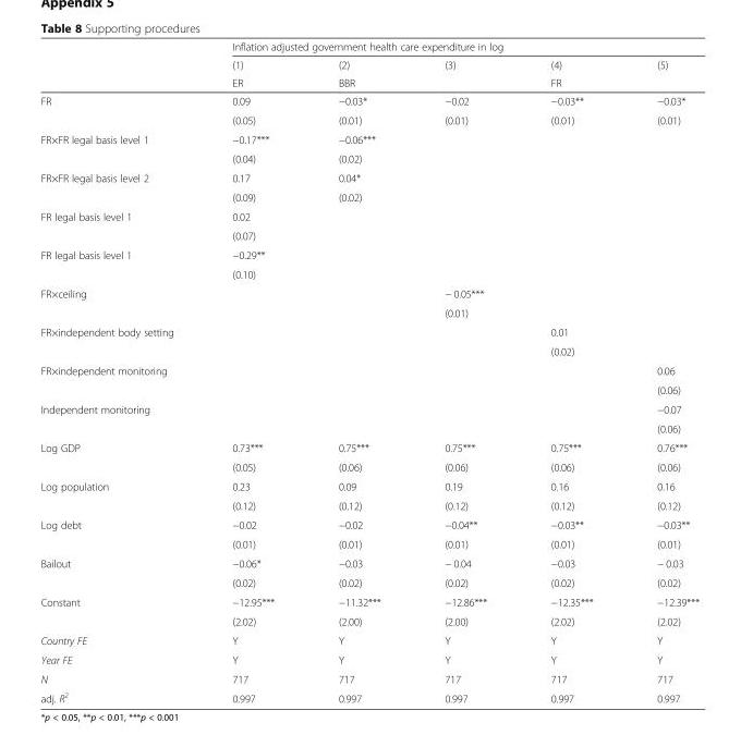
<table><thead><tr><td rowspan="3"></td><td colspan="5">Inflation adjusted government health care expenditure in log</td></tr><tr><td rowspan="2">(1) ER</td><td rowspan="2">(2) BBR</td><td rowspan="2">(3)</td><td rowspan="2">(4) FR</td><td rowspan="2">(5)</td></tr><tr></tr></thead><tbody><tr><td rowspan="2">FR</td><td>0.09</td><td>−0.03*</td><td>−0.02</td><td>−0.03**</td><td>−0.03*</td></tr><tr><td>(0.05)</td><td>(0.01)</td><td>(0.01)</td><td>(0.01)</td><td>(0.01)</td></tr><tr><td rowspan="2">FR×FR legal basis level 1</td><td>−0.17***</td><td>−0.06***</td><td></td><td></td><td></td></tr><tr><td>(0.04)</td><td>(0.02)</td><td></td><td></td><td></td></tr><tr><td rowspan="2">FR×FR legal basis level 2</td><td>0.17</td><td>0.04*</td><td></td><td></td><td></td></tr><tr><td>(0.09)</td><td>(0.02)</td><td></td><td></td><td></td></tr><tr><td rowspan="2">FR legal basis level 1</td><td>0.02</td><td></td><td></td><td></td><td></td></tr><tr><td>(0.07)</td><td></td><td></td><td></td><td></td></tr><tr><td rowspan="2">FR legal basis level 1</td><td>−0.29**</td><td></td><td></td><td></td><td></td></tr><tr><td>(0.10)</td><td></td><td></td><td></td><td></td></tr><tr><td rowspan="2">FR×ceiling</td><td></td><td></td><td>− 0.05***</td><td></td><td></td></tr><tr><td></td><td></td><td>(0.01)</td><td></td><td></td></tr><tr><td rowspan="2">FR×independent body setting</td><td></td><td></td><td></td><td>0.01</td><td></td></tr><tr><td></td><td></td><td></td><td>(0.02)</td><td></td></tr><tr><td rowspan="2">FR×independent monitoring</td><td></td><td></td><td></td><td></td><td>0.06</td></tr><tr><td></td><td></td><td></td><td></td><td>(0.06)</td></tr><tr><td rowspan="2">Independent monitoring</td><td></td><td></td><td></td><td></td><td>−0.07</td></tr><tr><td></td><td></td><td></td><td></td><td>(0.06)</td></tr><tr><td rowspan="2">Log GDP</td><td>0.73***</td><td>0.75***</td><td>0.75***</td><td>0.75***</td><td>0.76***</td></tr><tr><td>(0.05)</td><td>(0.06)</td><td>(0.06)</td><td>(0.06)</td><td>(0.06)</td></tr><tr><td rowspan="2">Log population</td><td>0.23</td><td>0.09</td><td>0.19</td><td>0.16</td><td>0.16</td></tr><tr><td>(0.12)</td><td>(0.12)</td><td>(0.12)</td><td>(0.12)</td><td>(0.12)</td></tr><tr><td rowspan="2">Log debt</td><td>−0.02</td><td>−0.02</td><td>−0.04**</td><td>−0.03**</td><td>−0.03**</td></tr><tr><td>(0.01)</td><td>(0.01)</td><td>(0.01)</td><td>(0.01)</td><td>(0.01)</td></tr><tr><td rowspan="2">Bailout</td><td>−0.06*</td><td>−0.03</td><td>− 0.04</td><td>−0.03</td><td>− 0.03</td></tr><tr><td>(0.02)</td><td>(0.02)</td><td>(0.02)</td><td>(0.02)</td><td>(0.02)</td></tr><tr><td rowspan="2">Constant</td><td>−12.95***</td><td>−11.32***</td><td>−12.86***</td><td>−12.35***</td><td>−12.39***</td></tr><tr><td>(2.02)</td><td>(2.00)</td><td>(2.00)</td><td>(2.02)</td><td>(2.02)</td></tr><tr><td>Country FE</td><td>Y</td><td>Y</td><td>Y</td><td>Y</td><td>Y</td></tr><tr><td>Year FE</td><td>Y</td><td>Y</td><td>Y</td><td>Y</td><td>Y</td></tr><tr><td>N</td><td>717</td><td>717</td><td>717</td><td>717</td><td>717</td></tr><tr><td>adj. R<sup>2</sup></td><td>0.997</td><td>0.997</td><td>0.997</td><td>0.997</td><td>0.997</td></tr></tbody></table>